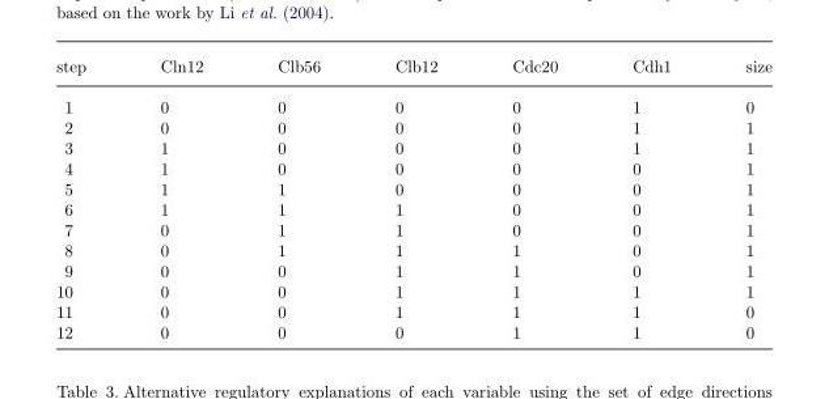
<table><thead><tr><td>step</td><td>Cln12</td><td>Clb56</td><td>Clb12</td><td>Cdc20</td><td>Cdh1</td><td>size</td></tr></thead><tbody><tr><td>1</td><td>0</td><td>0</td><td>0</td><td>0</td><td>1</td><td>0</td></tr><tr><td>2</td><td>0</td><td>0</td><td>0</td><td>0</td><td>1</td><td>1</td></tr><tr><td>3</td><td>1</td><td>0</td><td>0</td><td>0</td><td>1</td><td>1</td></tr><tr><td>4</td><td>1</td><td>0</td><td>0</td><td>0</td><td>0</td><td>1</td></tr><tr><td>5</td><td>1</td><td>1</td><td>0</td><td>0</td><td>0</td><td>1</td></tr><tr><td>6</td><td>1</td><td>1</td><td>1</td><td>0</td><td>0</td><td>1</td></tr><tr><td>7</td><td>0</td><td>1</td><td>1</td><td>0</td><td>0</td><td>1</td></tr><tr><td>8</td><td>0</td><td>1</td><td>1</td><td>1</td><td>0</td><td>1</td></tr><tr><td>9</td><td>0</td><td>0</td><td>1</td><td>1</td><td>0</td><td>1</td></tr><tr><td>10</td><td>0</td><td>0</td><td>1</td><td>1</td><td>1</td><td>1</td></tr><tr><td>11</td><td>0</td><td>0</td><td>1</td><td>1</td><td>1</td><td>0</td></tr><tr><td>12</td><td>0</td><td>0</td><td>0</td><td>1</td><td>1</td><td>0</td></tr></tbody></table>